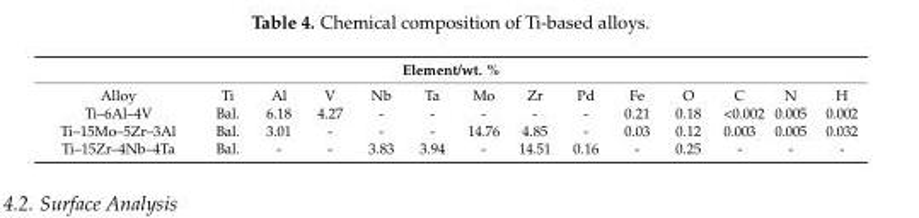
<table><thead><tr><td colspan="14">Element/wt. %</td></tr><tr><td>Alloy</td><td>Ti</td><td>Al</td><td>V</td><td>Nb</td><td>Ta</td><td>Mo</td><td>Zr</td><td>Pd</td><td>Fe</td><td>O</td><td>C</td><td>N</td><td>H</td></tr></thead><tbody><tr><td>Ti–6Al–4V</td><td>Bal.</td><td>6.18</td><td>4.27</td><td>-</td><td>-</td><td>-</td><td>-</td><td>-</td><td>0.21</td><td>0.18</td><td>&lt;0.002</td><td>0.005</td><td>0.002</td></tr><tr><td>Ti–15Mo–5Zr–3Al</td><td>Bal.</td><td>3.01</td><td>-</td><td>-</td><td>-</td><td>14.76</td><td>4.85</td><td>-</td><td>0.03</td><td>0.12</td><td>0.003</td><td>0.005</td><td>0.032</td></tr><tr><td>Ti–15Zr–4Nb–4Ta</td><td>Bal.</td><td>-</td><td>-</td><td>3.83</td><td>3.94</td><td>-</td><td>14.51</td><td>0.16</td><td>-</td><td>0.25</td><td>-</td><td>-</td><td>-</td></tr></tbody></table>